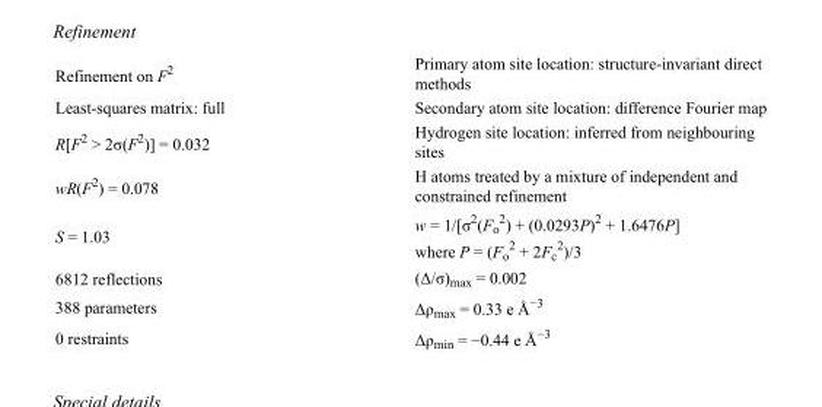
<table><tbody><tr><td>Refinement on F<sup>2</sup></td><td>Primary atom site location: structure-invariant direct methods</td></tr><tr><td>Least-squares matrix: full</td><td>Secondary atom site location: difference Fourier map</td></tr><tr><td>R[F<sup>2</sup> &gt; 2σ(F<sup>2</sup>)] = 0.032</td><td>Hydrogen site location: inferred from neighbouring sites</td></tr><tr><td>wR(F<sup>2</sup>) = 0.078</td><td>H atoms treated by a mixture of independent and constrained refinement</td></tr><tr><td>S = 1.03</td><td>w = 1/[σ<sup>2</sup>(F<sub>o</sub> <sup>2</sup>) + (0.0293P)<sup>2</sup> + 1.6476P] where P = (F<sub>o</sub> <sup>2</sup> + 2F<sub>c</sub> <sup>2</sup>)/3</td></tr><tr><td>6812 reflections</td><td>(Δ/σ)<sub>max</sub> = 0.002</td></tr><tr><td>388 parameters</td><td>Δρ<sub>max</sub> = 0.33 e Å<sup>−3</sup></td></tr><tr><td>0 restraints</td><td>Δρ<sub>min</sub> = −0.44 e Å<sup>−3</sup></td></tr></tbody></table>